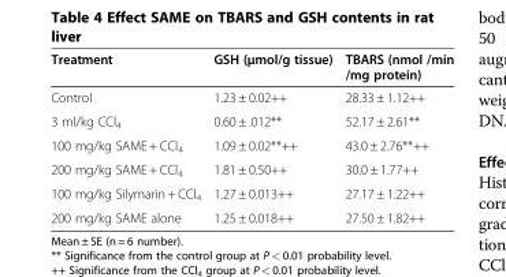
<table><thead><tr><td>Treatment</td><td>GSH (μmol/g tissue)</td><td>TBARS (nmol /min /mg protein)</td></tr></thead><tbody><tr><td>Control</td><td>1.23 ± 0.02++</td><td>28.33 ± 1.12++</td></tr><tr><td>3 ml/kg CCl<sub>4</sub></td><td>0.60 ± .012**</td><td>52.17 ± 2.61**</td></tr><tr><td>100 mg/kg SAME + CCl<sub>4</sub></td><td>1.09 ± 0.02**++</td><td>43.0 ± 2.76**++</td></tr><tr><td>200 mg/kg SAME + CCl<sub>4</sub></td><td>1.81 ± 0.50++</td><td>30.0 ± 1.77++</td></tr><tr><td>100 mg/kg Silymarin + CCl<sub>4</sub></td><td>1.27 ± 0.013++</td><td>27.17 ± 1.22++</td></tr><tr><td>200 mg/kg SAME alone</td><td>1.25 ± 0.018++</td><td>27.50 ± 1.82++</td></tr></tbody></table>